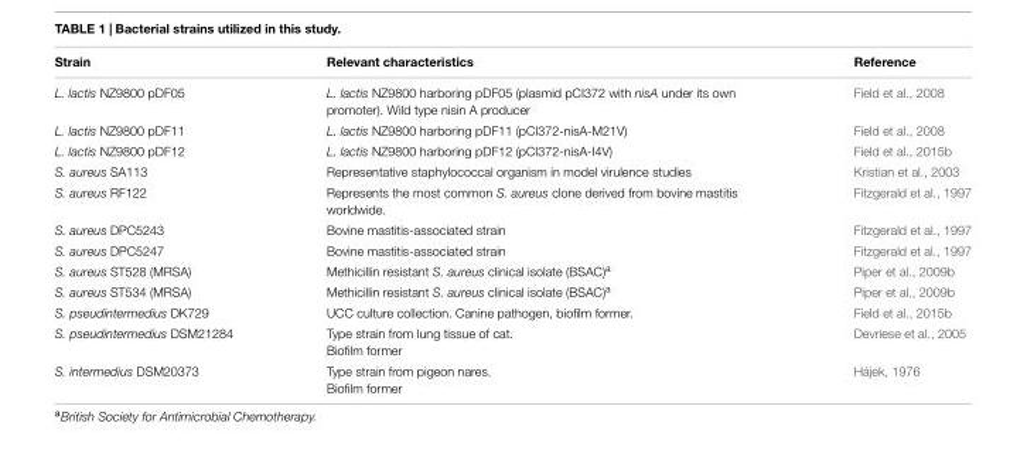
<table><thead><tr><td>Strain</td><td>Relevant characteristics</td><td>Reference</td></tr></thead><tbody><tr><td>L. lactis NZ9800 pDF05</td><td>L. lactis NZ9800 harboring pDF05 (plasmid pCI372 with nisA under its own promoter). Wild type nisin A producer</td><td>Field et al., 2008</td></tr><tr><td>L. lactis NZ9800 pDF11</td><td>L. lactis NZ9800 harboring pDF11 (pCI372-nisA-M21V)</td><td>Field et al., 2008</td></tr><tr><td>L. lactis NZ9800 pDF12</td><td>L. lactis NZ9800 harboring pDF12 (pCI372-nisA-I4V)</td><td>Field et al., 2015b</td></tr><tr><td>S. aureus SA113</td><td>Representative staphylococcal organism in model virulence studies</td><td>Kristian et al., 2003</td></tr><tr><td>S. aureus RF122</td><td>Represents the most common S. aureus clone derived from bovine mastitis worldwide.</td><td>Fitzgerald et al., 1997</td></tr><tr><td>S. aureus DPC5243</td><td>Bovine mastitis-associated strain</td><td>Fitzgerald et al., 1997</td></tr><tr><td>S. aureus DPC5247</td><td>Bovine mastitis-associated strain</td><td>Fitzgerald et al., 1997</td></tr><tr><td>S. aureus ST528 (MRSA)</td><td>Methicillin resistant S. aureus clinical isolate (BSAC)<sup>a</sup></td><td>Piper et al., 2009b</td></tr><tr><td>S. aureus ST534 (MRSA)</td><td>Methicillin resistant S. aureus clinical isolate (BSAC)<sup>a</sup></td><td>Piper et al., 2009b</td></tr><tr><td>S. pseudintermedius DK729</td><td>UCC culture collection. Canine pathogen, biofilm former.</td><td>Field et al., 2015b</td></tr><tr><td>S. pseudintermedius DSM21284</td><td>Type strain from lung tissue of cat. Biofilm former</td><td>Devriese et al., 2005</td></tr><tr><td>S. intermedius DSM20373</td><td>Type strain from pigeon nares. Biofilm former</td><td>Hájek, 1976</td></tr></tbody></table>